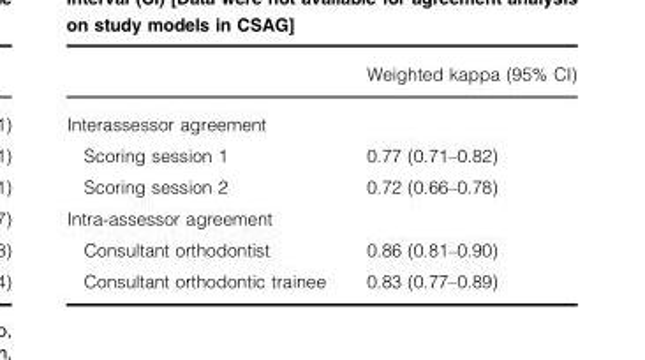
<table><thead><tr><td></td><td>Weighted kappa (95% CI)</td></tr></thead><tbody><tr><td colspan="2">Interassessor agreement</td></tr><tr><td>Scoring session 1</td><td>0.77 (0.71–0.82)</td></tr><tr><td>Scoring session 2</td><td>0.72 (0.66–0.78)</td></tr><tr><td colspan="2">Intra-assessor agreement</td></tr><tr><td>Consultant orthodontist</td><td>0.86 (0.81–0.90)</td></tr><tr><td>Consultant orthodontic trainee</td><td>0.83 (0.77–0.89)</td></tr></tbody></table>